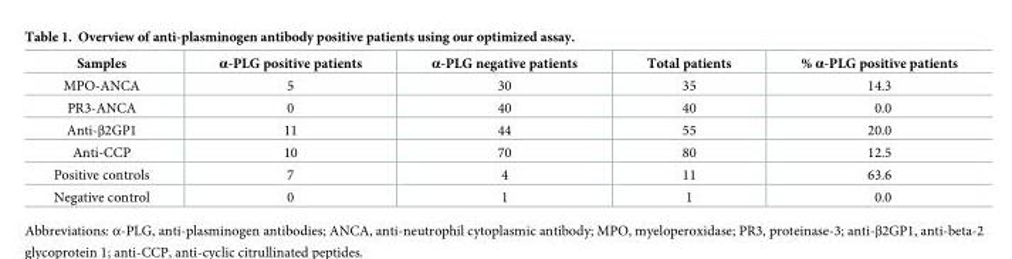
<table><thead><tr><td>Samples</td><td>α-PLG positive patients</td><td>α-PLG negative patients</td><td>Total patients</td><td>% α-PLG positive patients</td></tr></thead><tbody><tr><td>MPO-ANCA</td><td>5</td><td>30</td><td>35</td><td>14.3</td></tr><tr><td>PR3-ANCA</td><td>0</td><td>40</td><td>40</td><td>0.0</td></tr><tr><td>Anti-β2GP1</td><td>11</td><td>44</td><td>55</td><td>20.0</td></tr><tr><td>Anti-CCP</td><td>10</td><td>70</td><td>80</td><td>12.5</td></tr><tr><td>Positive controls</td><td>7</td><td>4</td><td>11</td><td>63.6</td></tr><tr><td>Negative control</td><td>0</td><td>1</td><td>1</td><td>0.0</td></tr></tbody></table>